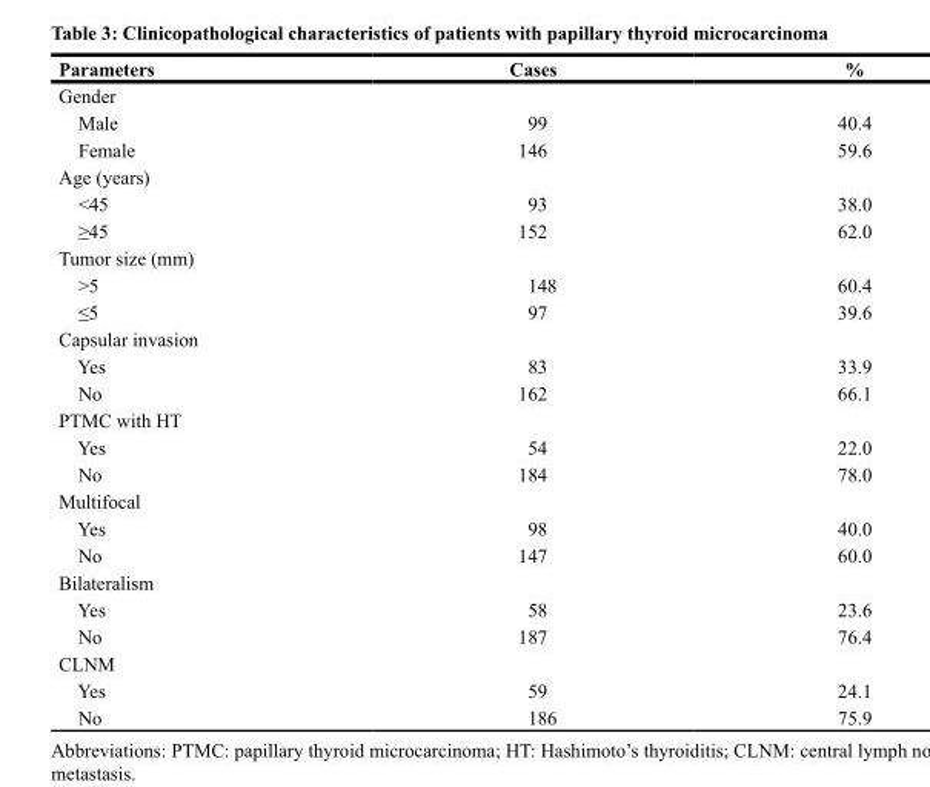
<table><thead><tr><td>Parameters</td><td>Cases</td><td>%</td></tr></thead><tbody><tr><td colspan="3">Gender</td></tr><tr><td>Male</td><td>99</td><td>40.4</td></tr><tr><td>Female</td><td>146</td><td>59.6</td></tr><tr><td colspan="3">Age (years)</td></tr><tr><td>&lt;45</td><td>93</td><td>38.0</td></tr><tr><td>≥45</td><td>152</td><td>62.0</td></tr><tr><td colspan="3">Tumor size (mm)</td></tr><tr><td>&gt;5</td><td>148</td><td>60.4</td></tr><tr><td>≤5</td><td>97</td><td>39.6</td></tr><tr><td colspan="3">Capsular invasion</td></tr><tr><td>Yes</td><td>83</td><td>33.9</td></tr><tr><td>No</td><td>162</td><td>66.1</td></tr><tr><td colspan="3">PTMC with HT</td></tr><tr><td>Yes</td><td>54</td><td>22.0</td></tr><tr><td>No</td><td>184</td><td>78.0</td></tr><tr><td colspan="3">Multifocal</td></tr><tr><td>Yes</td><td>98</td><td>40.0</td></tr><tr><td>No</td><td>147</td><td>60.0</td></tr><tr><td colspan="3">Bilateralism</td></tr><tr><td>Yes</td><td>58</td><td>23.6</td></tr><tr><td>No</td><td>187</td><td>76.4</td></tr><tr><td colspan="3">CLNM</td></tr><tr><td>Yes</td><td>59</td><td>24.1</td></tr><tr><td>No</td><td>186</td><td>75.9</td></tr></tbody></table>